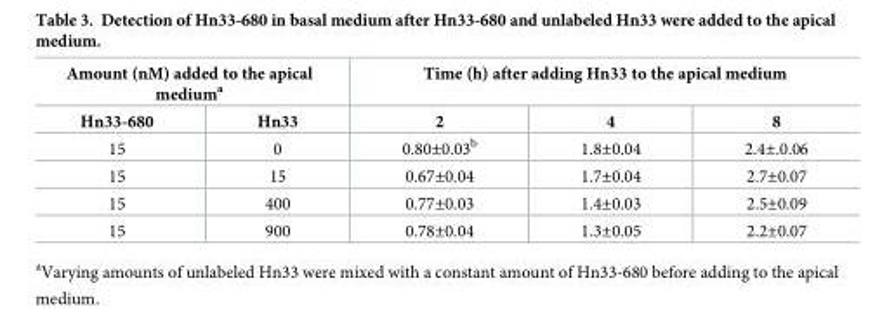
<table><thead><tr><td colspan="2">Amount (nM) added to the apical medium<sup>a</sup></td><td colspan="3">Time (h) after adding Hn33 to the apical medium</td></tr><tr><td>Hn33-680</td><td>Hn33</td><td>2</td><td>4</td><td>8</td></tr></thead><tbody><tr><td>15</td><td>0</td><td>0.80±0.03<sup>b</sup></td><td>1.8±0.04</td><td>2.4±.0.06</td></tr><tr><td>15</td><td>15</td><td>0.67±0.04</td><td>1.7±0.04</td><td>2.7±0.07</td></tr><tr><td>15</td><td>400</td><td>0.77±0.03</td><td>1.4±0.03</td><td>2.5±0.09</td></tr><tr><td>15</td><td>900</td><td>0.78±0.04</td><td>1.3±0.05</td><td>2.2±0.07</td></tr></tbody></table>